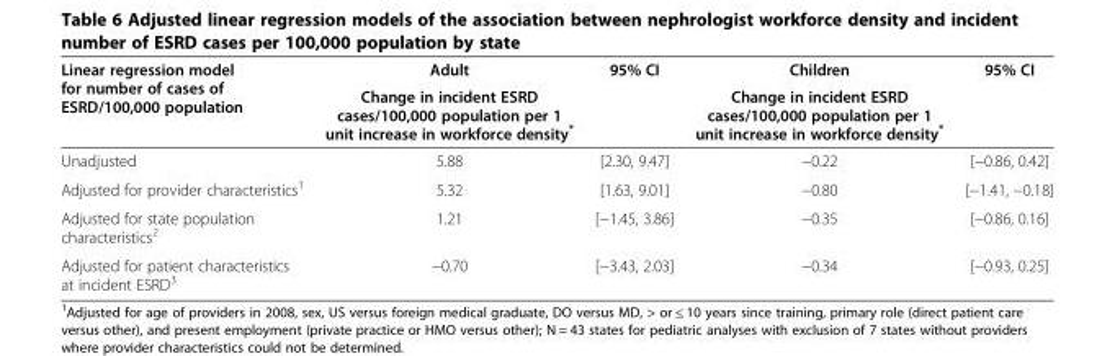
<table><thead><tr><td rowspan="2">Linear regression model for number of cases of ESRD/100,000 population</td><td rowspan="2">Adult Change in incident ESRD cases/100,000 population per 1 unit increase in workforce density*</td><td rowspan="2">95% CI</td><td rowspan="2">Children Change in incident ESRD cases/100,000 population per 1 unit increase in workforce density*</td><td rowspan="2">95% CI</td></tr><tr></tr></thead><tbody><tr><td>Unadjusted</td><td>5.88</td><td>[2.30, 9.47]</td><td>−0.22</td><td>[−0.86, 0.42]</td></tr><tr><td>Adjusted for provider characteristics<sup>1</sup></td><td>5.32</td><td>[1.63, 9.01]</td><td>−0.80</td><td>[−1.41, −0.18]</td></tr><tr><td>Adjusted for state population characteristics<sup>2</sup></td><td>1.21</td><td>[−1.45, 3.86]</td><td>−0.35</td><td>[−0.86, 0.16]</td></tr><tr><td>Adjusted for patient characteristics at incident ESRD<sup>3</sup></td><td>−0.70</td><td>[−3.43, 2.03]</td><td>−0.34</td><td>[−0.93, 0.25]</td></tr></tbody></table>